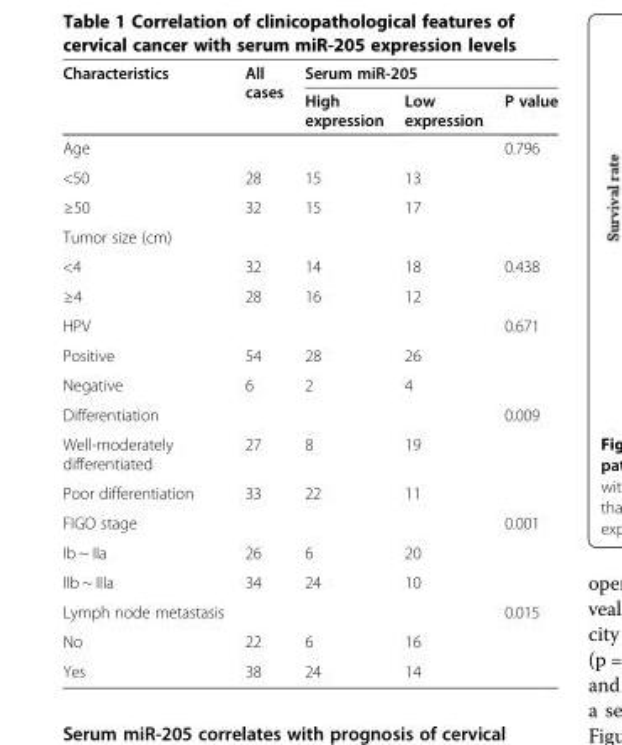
<table><thead><tr><td rowspan="2">Characteristics</td><td rowspan="2">All cases</td><td colspan="3">Serum miR-205</td></tr><tr><td>High expression</td><td>Low expression</td><td>P value</td></tr></thead><tbody><tr><td>Age</td><td></td><td></td><td></td><td>0.796</td></tr><tr><td>&lt;50</td><td>28</td><td>15</td><td>13</td><td></td></tr><tr><td>≥50</td><td>32</td><td>15</td><td>17</td><td></td></tr><tr><td colspan="5">Tumor size (cm)</td></tr><tr><td>&lt;4</td><td>32</td><td>14</td><td>18</td><td>0.438</td></tr><tr><td>≥4</td><td>28</td><td>16</td><td>12</td><td></td></tr><tr><td>HPV</td><td></td><td></td><td></td><td>0.671</td></tr><tr><td>Positive</td><td>54</td><td>28</td><td>26</td><td></td></tr><tr><td>Negative</td><td>6</td><td>2</td><td>4</td><td></td></tr><tr><td>Differentiation</td><td></td><td></td><td></td><td>0.009</td></tr><tr><td>Well-moderately differentiated</td><td>27</td><td>8</td><td>19</td><td></td></tr><tr><td>Poor differentiation</td><td>33</td><td>22</td><td>11</td><td></td></tr><tr><td>FIGO stage</td><td></td><td></td><td></td><td>0.001</td></tr><tr><td>Ib ~ IIa</td><td>26</td><td>6</td><td>20</td><td></td></tr><tr><td>IIb ~ IIIa</td><td>34</td><td>24</td><td>10</td><td></td></tr><tr><td>Lymph node metastasis</td><td></td><td></td><td></td><td>0.015</td></tr><tr><td>No</td><td>22</td><td>6</td><td>16</td><td></td></tr><tr><td>Yes</td><td>38</td><td>24</td><td>14</td><td></td></tr></tbody></table>